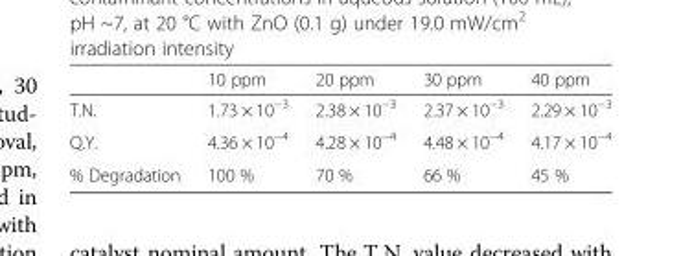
<table><thead><tr><td></td><td>10 ppm</td><td>20 ppm</td><td>30 ppm</td><td>40 ppm</td></tr></thead><tbody><tr><td>T.N.</td><td>1.73 × 10<sup>−3</sup></td><td>2.38 × 10<sup>−3</sup></td><td>2.37 × 10<sup>−3</sup></td><td>2.29 × 10<sup>−3</sup></td></tr><tr><td>Q.Y.</td><td>4.36 × 10<sup>−4</sup></td><td>4.28 × 10<sup>−4</sup></td><td>4.48 × 10<sup>−4</sup></td><td>4.17 × 10<sup>−4</sup></td></tr><tr><td>% Degradation</td><td>100 %</td><td>70 %</td><td>66 %</td><td>45 %</td></tr></tbody></table>